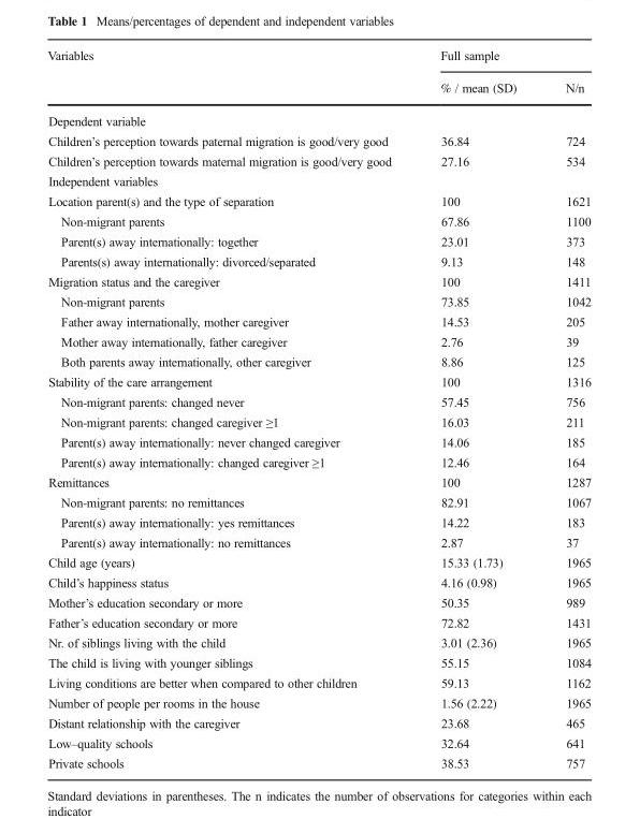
<table><thead><tr><td rowspan="2">Variables</td><td colspan="2">Full sample</td></tr><tr><td>% / mean (SD)</td><td>N/n</td></tr></thead><tbody><tr><td colspan="3">Dependent variable</td></tr><tr><td>Children’s perception towards paternal migration is good/very good</td><td>36.84</td><td>724</td></tr><tr><td>Children’s perception towards maternal migration is good/very good</td><td>27.16</td><td>534</td></tr><tr><td colspan="3">Independent variables</td></tr><tr><td>Location parent(s) and the type of separation</td><td>100</td><td>1621</td></tr><tr><td>Non-migrant parents</td><td>67.86</td><td>1100</td></tr><tr><td>Parent(s) away internationally: together</td><td>23.01</td><td>373</td></tr><tr><td>Parents(s) away internationally: divorced/separated</td><td>9.13</td><td>148</td></tr><tr><td>Migration status and the caregiver</td><td>100</td><td>1411</td></tr><tr><td>Non-migrant parents</td><td>73.85</td><td>1042</td></tr><tr><td>Father away internationally, mother caregiver</td><td>14.53</td><td>205</td></tr><tr><td>Mother away internationally, father caregiver</td><td>2.76</td><td>39</td></tr><tr><td>Both parents away internationally, other caregiver</td><td>8.86</td><td>125</td></tr><tr><td>Stability of the care arrangement</td><td>100</td><td>1316</td></tr><tr><td>Non-migrant parents: changed never</td><td>57.45</td><td>756</td></tr><tr><td>Non-migrant parents: changed caregiver ≥1</td><td>16.03</td><td>211</td></tr><tr><td>Parent(s) away internationally: never changed caregiver</td><td>14.06</td><td>185</td></tr><tr><td>Parent(s) away internationally: changed caregiver ≥1</td><td>12.46</td><td>164</td></tr><tr><td>Remittances</td><td>100</td><td>1287</td></tr><tr><td>Non-migrant parents: no remittances</td><td>82.91</td><td>1067</td></tr><tr><td>Parent(s) away internationally: yes remittances</td><td>14.22</td><td>183</td></tr><tr><td>Parent(s) away internationally: no remittances</td><td>2.87</td><td>37</td></tr><tr><td>Child age (years)</td><td>15.33 (1.73)</td><td>1965</td></tr><tr><td>Child’s happiness status</td><td>4.16 (0.98)</td><td>1965</td></tr><tr><td>Mother’s education secondary or more</td><td>50.35</td><td>989</td></tr><tr><td>Father’s education secondary or more</td><td>72.82</td><td>1431</td></tr><tr><td>Nr. of siblings living with the child</td><td>3.01 (2.36)</td><td>1965</td></tr><tr><td>The child is living with younger siblings</td><td>55.15</td><td>1084</td></tr><tr><td>Living conditions are better when compared to other children</td><td>59.13</td><td>1162</td></tr><tr><td>Number of people per rooms in the house</td><td>1.56 (2.22)</td><td>1965</td></tr><tr><td>Distant relationship with the caregiver</td><td>23.68</td><td>465</td></tr><tr><td>Low–quality schools</td><td>32.64</td><td>641</td></tr><tr><td>Private schools</td><td>38.53</td><td>757</td></tr></tbody></table>